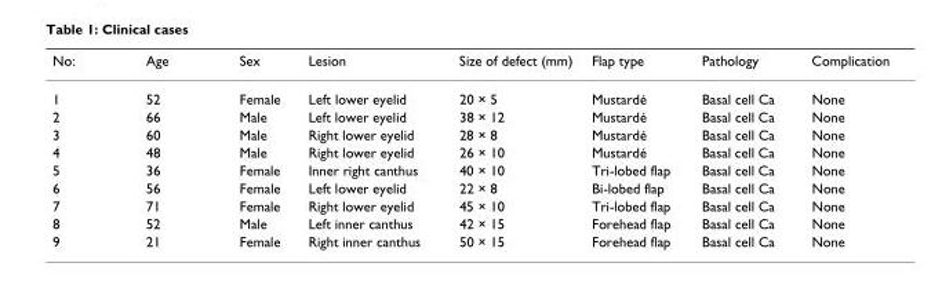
<table><thead><tr><td>No:</td><td>Age</td><td>Sex</td><td>Lesion</td><td>Size of defect (mm)</td><td>Flap type</td><td>Pathology</td><td>Complication</td></tr></thead><tbody><tr><td>1</td><td>52</td><td>Female</td><td>Left lower eyelid</td><td>20 × 5</td><td>Mustardé</td><td>Basal cell Ca</td><td>None</td></tr><tr><td>2</td><td>66</td><td>Male</td><td>Left lower eyelid</td><td>38 × 12</td><td>Mustardé</td><td>Basal cell Ca</td><td>None</td></tr><tr><td>3</td><td>60</td><td>Male</td><td>Right lower eyelid</td><td>28 × 8</td><td>Mustardé</td><td>Basal cell Ca</td><td>None</td></tr><tr><td>4</td><td>48</td><td>Male</td><td>Right lower eyelid</td><td>26 × 10</td><td>Mustardé</td><td>Basal cell Ca</td><td>None</td></tr><tr><td>5</td><td>36</td><td>Female</td><td>Inner right canthus</td><td>40 × 10</td><td>Tri-lobed flap</td><td>Basal cell Ca</td><td>None</td></tr><tr><td>6</td><td>56</td><td>Female</td><td>Left lower eyelid</td><td>22 × 8</td><td>Bi-lobed flap</td><td>Basal cell Ca</td><td>None</td></tr><tr><td>7</td><td>71</td><td>Female</td><td>Right lower eyelid</td><td>45 × 10</td><td>Tri-lobed flap</td><td>Basal cell Ca</td><td>None</td></tr><tr><td>8</td><td>52</td><td>Male</td><td>Left inner canthus</td><td>42 × 15</td><td>Forehead flap</td><td>Basal cell Ca</td><td>None</td></tr><tr><td>9</td><td>21</td><td>Female</td><td>Right inner canthus</td><td>50 × 15</td><td>Forehead flap</td><td>Basal cell Ca</td><td>None</td></tr></tbody></table>